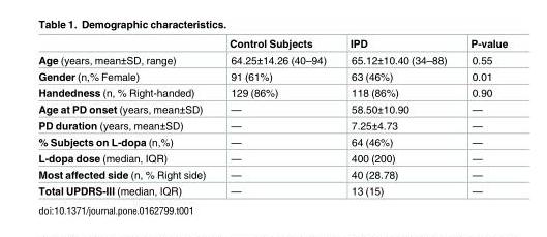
<table><thead><tr><td></td><td>Control Subjects</td><td>IPD</td><td>P-value</td></tr></thead><tbody><tr><td>Age (years, mean±SD, range)</td><td>64.25±14.26 (40–94)</td><td>65.12±10.40 (34–88)</td><td>0.55</td></tr><tr><td>Gender (n,% Female)</td><td>91 (61%)</td><td>63 (46%)</td><td>0.01</td></tr><tr><td>Handedness (n, % Right-handed)</td><td>129 (86%)</td><td>118 (86%)</td><td>0.90</td></tr><tr><td>Age at PD onset (years, mean±SD)</td><td>—</td><td>58.50±10.90</td><td>—</td></tr><tr><td>PD duration (years, mean±SD)</td><td>—</td><td>7.25±4.73</td><td>—</td></tr><tr><td>% Subjects on L-dopa (n,%)</td><td>—</td><td>64 (46%)</td><td>—</td></tr><tr><td>L-dopa dose (median, IQR)</td><td>—</td><td>400 (200)</td><td>—</td></tr><tr><td>Most affected side (n, % Right side)</td><td>—</td><td>40 (28.78)</td><td>—</td></tr><tr><td>Total UPDRS-III (median, IQR)</td><td>—</td><td>13 (15)</td><td>—</td></tr></tbody></table>